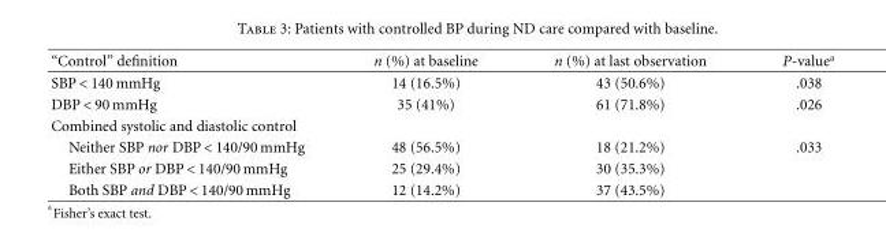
<table><thead><tr><td>“Control” definition</td><td>n (%) at baseline</td><td>n (%) at last observation</td><td>P-value<sup>a</sup></td></tr></thead><tbody><tr><td>SBP &lt; 140 mmHg</td><td>14 (16.5%)</td><td>43 (50.6%)</td><td>.038</td></tr><tr><td>DBP &lt; 90 mmHg</td><td>35 (41%)</td><td>61 (71.8%)</td><td>.026</td></tr><tr><td colspan="4">Combined systolic and diastolic control</td></tr><tr><td>Neither SBP nor DBP &lt; 140/90 mmHg</td><td>48 (56.5%)</td><td>18 (21.2%)</td><td>.033</td></tr><tr><td>Either SBP or DBP &lt; 140/90 mmHg</td><td>25 (29.4%)</td><td>30 (35.3%)</td><td></td></tr><tr><td>Both SBP and DBP &lt; 140/90 mmHg</td><td>12 (14.2%)</td><td>37 (43.5%)</td><td></td></tr></tbody></table>